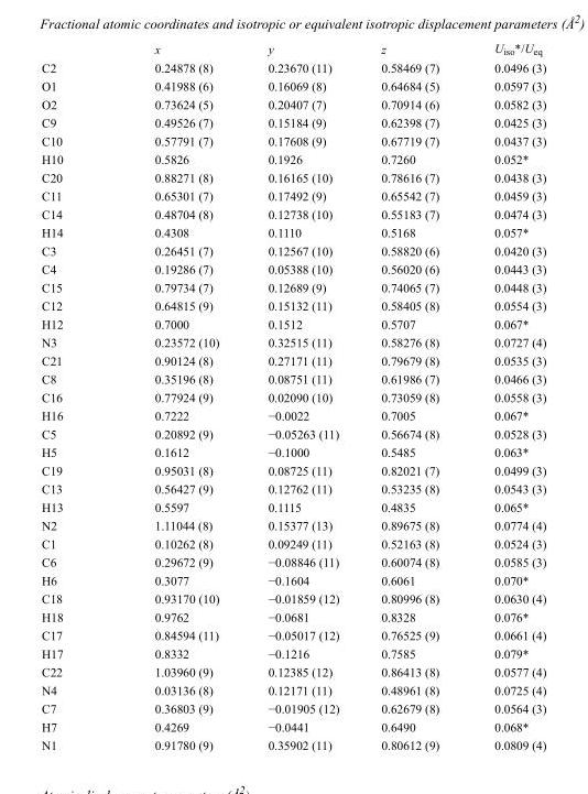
<table><thead><tr><td></td><td>x</td><td>y</td><td>z</td><td>U<sub>iso</sub>*/U<sub>eq</sub></td></tr></thead><tbody><tr><td>C2</td><td>0.24878 (8)</td><td>0.23670 (11)</td><td>0.58469 (7)</td><td>0.0496 (3)</td></tr><tr><td>O1</td><td>0.41988 (6)</td><td>0.16069 (8)</td><td>0.64684 (5)</td><td>0.0597 (3)</td></tr><tr><td>O2</td><td>0.73624 (5)</td><td>0.20407 (7)</td><td>0.70914 (6)</td><td>0.0582 (3)</td></tr><tr><td>C9</td><td>0.49526 (7)</td><td>0.15184 (9)</td><td>0.62398 (7)</td><td>0.0425 (3)</td></tr><tr><td>C10</td><td>0.57791 (7)</td><td>0.17608 (9)</td><td>0.67719 (7)</td><td>0.0437 (3)</td></tr><tr><td>H10</td><td>0.5826</td><td>0.1926</td><td>0.7260</td><td>0.052*</td></tr><tr><td>C20</td><td>0.88271 (8)</td><td>0.16165 (10)</td><td>0.78616 (7)</td><td>0.0438 (3)</td></tr><tr><td>C11</td><td>0.65301 (7)</td><td>0.17492 (9)</td><td>0.65542 (7)</td><td>0.0459 (3)</td></tr><tr><td>C14</td><td>0.48704 (8)</td><td>0.12738 (10)</td><td>0.55183 (7)</td><td>0.0474 (3)</td></tr><tr><td>H14</td><td>0.4308</td><td>0.1110</td><td>0.5168</td><td>0.057*</td></tr><tr><td>C3</td><td>0.26451 (7)</td><td>0.12567 (10)</td><td>0.58820 (6)</td><td>0.0420 (3)</td></tr><tr><td>C4</td><td>0.19286 (7)</td><td>0.05388 (10)</td><td>0.56020 (6)</td><td>0.0443 (3)</td></tr><tr><td>C15</td><td>0.79734 (7)</td><td>0.12689 (9)</td><td>0.74065 (7)</td><td>0.0448 (3)</td></tr><tr><td>C12</td><td>0.64815 (9)</td><td>0.15132 (11)</td><td>0.58405 (8)</td><td>0.0554 (3)</td></tr><tr><td>H12</td><td>0.7000</td><td>0.1512</td><td>0.5707</td><td>0.067*</td></tr><tr><td>N3</td><td>0.23572 (10)</td><td>0.32515 (11)</td><td>0.58276 (8)</td><td>0.0727 (4)</td></tr><tr><td>C21</td><td>0.90124 (8)</td><td>0.27171 (11)</td><td>0.79679 (8)</td><td>0.0535 (3)</td></tr><tr><td>C8</td><td>0.35196 (8)</td><td>0.08751 (11)</td><td>0.61986 (7)</td><td>0.0466 (3)</td></tr><tr><td>C16</td><td>0.77924 (9)</td><td>0.02090 (10)</td><td>0.73059 (8)</td><td>0.0558 (3)</td></tr><tr><td>H16</td><td>0.7222</td><td>−0.0022</td><td>0.7005</td><td>0.067*</td></tr><tr><td>C5</td><td>0.20892 (9)</td><td>−0.05263 (11)</td><td>0.56674 (8)</td><td>0.0528 (3)</td></tr><tr><td>H5</td><td>0.1612</td><td>−0.1000</td><td>0.5485</td><td>0.063*</td></tr><tr><td>C19</td><td>0.95031 (8)</td><td>0.08725 (11)</td><td>0.82021 (7)</td><td>0.0499 (3)</td></tr><tr><td>C13</td><td>0.56427 (9)</td><td>0.12762 (11)</td><td>0.53235 (8)</td><td>0.0543 (3)</td></tr><tr><td>H13</td><td>0.5597</td><td>0.1115</td><td>0.4835</td><td>0.065*</td></tr><tr><td>N2</td><td>1.11044 (8)</td><td>0.15377 (13)</td><td>0.89675 (8)</td><td>0.0774 (4)</td></tr><tr><td>C1</td><td>0.10262 (8)</td><td>0.09249 (11)</td><td>0.52163 (8)</td><td>0.0524 (3)</td></tr><tr><td>C6</td><td>0.29672 (9)</td><td>−0.08846 (11)</td><td>0.60074 (8)</td><td>0.0585 (3)</td></tr><tr><td>H6</td><td>0.3077</td><td>−0.1604</td><td>0.6061</td><td>0.070*</td></tr><tr><td>C18</td><td>0.93170 (10)</td><td>−0.01859 (12)</td><td>0.80996 (8)</td><td>0.0630 (4)</td></tr><tr><td>H18</td><td>0.9762</td><td>−0.0681</td><td>0.8328</td><td>0.076*</td></tr><tr><td>C17</td><td>0.84594 (11)</td><td>−0.05017 (12)</td><td>0.76525 (9)</td><td>0.0661 (4)</td></tr><tr><td>H17</td><td>0.8332</td><td>−0.1216</td><td>0.7585</td><td>0.079*</td></tr><tr><td>C22</td><td>1.03960 (9)</td><td>0.12385 (12)</td><td>0.86413 (8)</td><td>0.0577 (4)</td></tr><tr><td>N4</td><td>0.03136 (8)</td><td>0.12171 (11)</td><td>0.48961 (8)</td><td>0.0725 (4)</td></tr><tr><td>C7</td><td>0.36803 (9)</td><td>−0.01905 (12)</td><td>0.62679 (8)</td><td>0.0564 (3)</td></tr><tr><td>H7</td><td>0.4269</td><td>−0.0441</td><td>0.6490</td><td>0.068*</td></tr><tr><td>N1</td><td>0.91780 (9)</td><td>0.35902 (11)</td><td>0.80612 (9)</td><td>0.0809 (4)</td></tr></tbody></table>